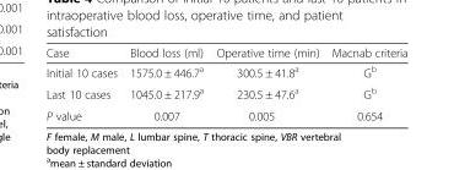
<table><thead><tr><td>Case</td><td>Blood loss (ml)</td><td>Operative time (min)</td><td>Macnab criteria</td></tr></thead><tbody><tr><td>Initial 10 cases</td><td>1575.0 ± 446.7<sup>a</sup></td><td>300.5 ± 41.8<sup>a</sup></td><td>G<sup>b</sup></td></tr><tr><td>Last 10 cases</td><td>1045.0 ± 217.9<sup>a</sup></td><td>230.5 ± 47.6<sup>a</sup></td><td>G<sup>b</sup></td></tr><tr><td>P value</td><td>0.007</td><td>0.005</td><td>0.654</td></tr></tbody></table>